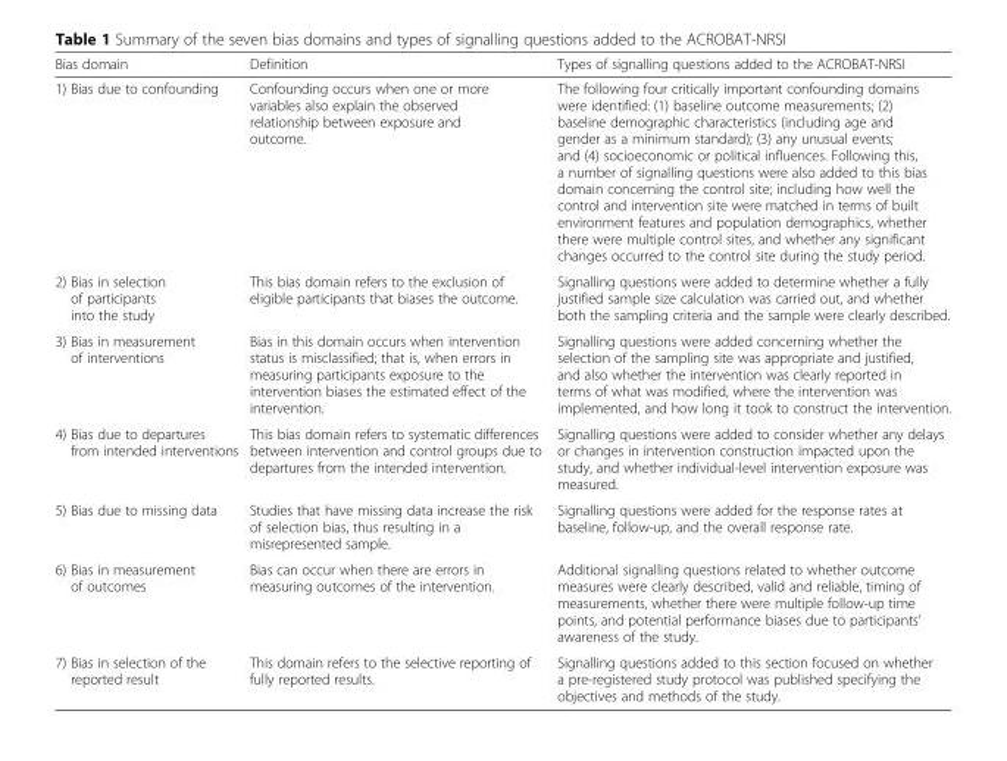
<table><thead><tr><td>Bias domain</td><td>Definition</td><td>Types of signalling questions added to the ACROBAT-NRSI</td></tr></thead><tbody><tr><td>1) Bias due to confounding</td><td>Confounding occurs when one or more variables also explain the observed relationship between exposure and outcome.</td><td>The following four critically important confounding domains were identified: (1) baseline outcome measurements; (2) baseline demographic characteristics (including age and gender as a minimum standard); (3) any unusual events; and (4) socioeconomic or political influences. Following this, a number of signalling questions were also added to this bias domain concerning the control site; including how well the control and intervention site were matched in terms of built environment features and population demographics, whether there were multiple control sites, and whether any significant changes occurred to the control site during the study period.</td></tr><tr><td>2) Bias in selection of participants into the study</td><td>This bias domain refers to the exclusion of eligible participants that biases the outcome.</td><td>Signalling questions were added to determine whether a fully justified sample size calculation was carried out, and whether both the sampling criteria and the sample were clearly described.</td></tr><tr><td>3) Bias in measurement of interventions</td><td>Bias in this domain occurs when intervention status is misclassified; that is, when errors in measuring participants exposure to the intervention biases the estimated effect of the intervention.</td><td>Signalling questions were added concerning whether the selection of the sampling site was appropriate and justified, and also whether the intervention was clearly reported in terms of what was modified, where the intervention was implemented, and how long it took to construct the intervention.</td></tr><tr><td>4) Bias due to departures from intended interventions</td><td>This bias domain refers to systematic differences between intervention and control groups due to departures from the intended intervention.</td><td>Signalling questions were added to consider whether any delays or changes in intervention construction impacted upon the study, and whether individual-level intervention exposure was measured.</td></tr><tr><td>5) Bias due to missing data</td><td>Studies that have missing data increase the risk of selection bias, thus resulting in a misrepresented sample.</td><td>Signalling questions were added for the response rates at baseline, follow-up, and the overall response rate.</td></tr><tr><td>6) Bias in measurement of outcomes</td><td>Bias can occur when there are errors in measuring outcomes of the intervention.</td><td>Additional signalling questions related to whether outcome measures were clearly described, valid and reliable, timing of measurements, whether there were multiple follow-up time points, and potential performance biases due to participants’ awareness of the study.</td></tr><tr><td>7) Bias in selection of the reported result</td><td>This domain refers to the selective reporting of fully reported results.</td><td>Signalling questions added to this section focused on whether a pre-registered study protocol was published specifying the objectives and methods of the study.</td></tr></tbody></table>